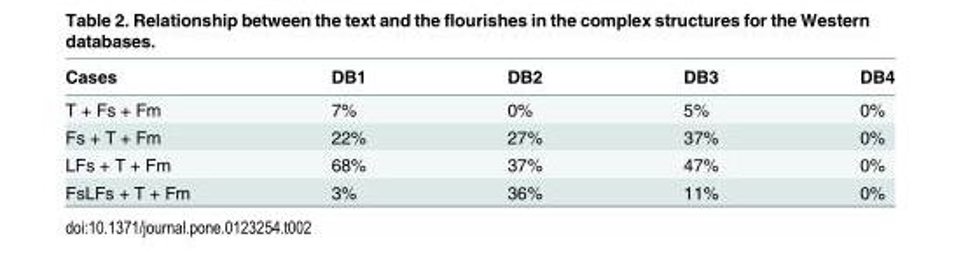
<table><thead><tr><td>Cases</td><td>DB1</td><td>DB2</td><td>DB3</td><td>DB4</td></tr></thead><tbody><tr><td>T + Fs + Fm</td><td>7%</td><td>0%</td><td>5%</td><td>0%</td></tr><tr><td>Fs + T + Fm</td><td>22%</td><td>27%</td><td>37%</td><td>0%</td></tr><tr><td>LFs + T + Fm</td><td>68%</td><td>37%</td><td>47%</td><td>0%</td></tr><tr><td>FsLFs + T + Fm</td><td>3%</td><td>36%</td><td>11%</td><td>0%</td></tr></tbody></table>